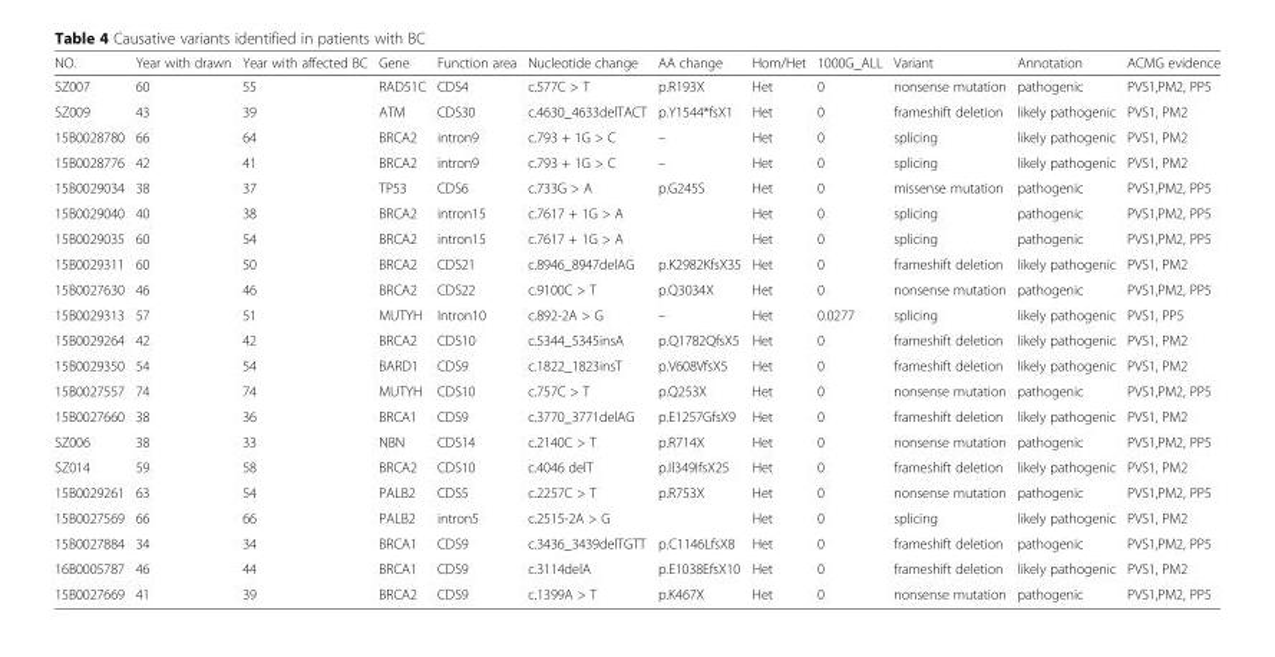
<table><thead><tr><td>NO.</td><td>Year with drawn</td><td>Year with affected BC</td><td>Gene</td><td>Function area</td><td>Nucleotide change</td><td>AA change</td><td>Hom/Het</td><td>1000G_ALL</td><td>Variant</td><td>Annotation</td><td>ACMG evidence</td></tr></thead><tbody><tr><td>SZ007</td><td>60</td><td>55</td><td>RAD51C</td><td>CDS4</td><td>c.577C &gt; T</td><td>p.R193X</td><td>Het</td><td>0</td><td>nonsense mutation</td><td>pathogenic</td><td>PVS1,PM2, PP5</td></tr><tr><td>SZ009</td><td>43</td><td>39</td><td>ATM</td><td>CDS30</td><td>c.4630_4633delTACT</td><td>p.Y1544*fsX1</td><td>Het</td><td>0</td><td>frameshift deletion</td><td>likely pathogenic</td><td>PVS1, PM2</td></tr><tr><td>15B0028780</td><td>66</td><td>64</td><td>BRCA2</td><td>intron9</td><td>c.793 + 1G &gt; C</td><td>–</td><td>Het</td><td>0</td><td>splicing</td><td>likely pathogenic</td><td>PVS1, PM2</td></tr><tr><td>15B0028776</td><td>42</td><td>41</td><td>BRCA2</td><td>intron9</td><td>c.793 + 1G &gt; C</td><td>–</td><td>Het</td><td>0</td><td>splicing</td><td>likely pathogenic</td><td>PVS1, PM2</td></tr><tr><td>15B0029034</td><td>38</td><td>37</td><td>TP53</td><td>CDS6</td><td>c.733G &gt; A</td><td>p.G245S</td><td>Het</td><td>0</td><td>missense mutation</td><td>pathogenic</td><td>PVS1,PM2, PP5</td></tr><tr><td>15B0029040</td><td>40</td><td>38</td><td>BRCA2</td><td>intron15</td><td>c.7617 + 1G &gt; A</td><td></td><td>Het</td><td>0</td><td>splicing</td><td>pathogenic</td><td>PVS1,PM2, PP5</td></tr><tr><td>15B0029035</td><td>60</td><td>54</td><td>BRCA2</td><td>intron15</td><td>c.7617 + 1G &gt; A</td><td></td><td>Het</td><td>0</td><td>splicing</td><td>pathogenic</td><td>PVS1,PM2, PP5</td></tr><tr><td>15B0029311</td><td>60</td><td>50</td><td>BRCA2</td><td>CDS21</td><td>c.8946_8947delAG</td><td>p.K2982KfsX35</td><td>Het</td><td>0</td><td>frameshift deletion</td><td>likely pathogenic</td><td>PVS1, PM2</td></tr><tr><td>15B0027630</td><td>46</td><td>46</td><td>BRCA2</td><td>CDS22</td><td>c.9100C &gt; T</td><td>p.Q3034X</td><td>Het</td><td>0</td><td>nonsense mutation</td><td>pathogenic</td><td>PVS1,PM2, PP5</td></tr><tr><td>15B0029313</td><td>57</td><td>51</td><td>MUTYH</td><td>Intron10</td><td>c.892-2A &gt; G</td><td>–</td><td>Het</td><td>0.0277</td><td>splicing</td><td>likely pathogenic</td><td>PVS1, PP5</td></tr><tr><td>15B0029264</td><td>42</td><td>42</td><td>BRCA2</td><td>CDS10</td><td>c.5344_5345insA</td><td>p.Q1782QfsX5</td><td>Het</td><td>0</td><td>frameshift deletion</td><td>likely pathogenic</td><td>PVS1, PM2</td></tr><tr><td>15B0029350</td><td>54</td><td>54</td><td>BARD1</td><td>CDS9</td><td>c.1822_1823insT</td><td>p.V608VfsX5</td><td>Het</td><td>0</td><td>frameshift deletion</td><td>likely pathogenic</td><td>PVS1, PM2</td></tr><tr><td>15B0027557</td><td>74</td><td>74</td><td>MUTYH</td><td>CDS10</td><td>c.757C &gt; T</td><td>p.Q253X</td><td>Het</td><td>0</td><td>nonsense mutation</td><td>pathogenic</td><td>PVS1,PM2, PP5</td></tr><tr><td>15B0027660</td><td>38</td><td>36</td><td>BRCA1</td><td>CDS9</td><td>c.3770_3771delAG</td><td>p.E1257GfsX9</td><td>Het</td><td>0</td><td>frameshift deletion</td><td>likely pathogenic</td><td>PVS1, PM2</td></tr><tr><td>SZ006</td><td>38</td><td>33</td><td>NBN</td><td>CDS14</td><td>c.2140C &gt; T</td><td>p.R714X</td><td>Het</td><td>0</td><td>nonsense mutation</td><td>pathogenic</td><td>PVS1,PM2, PP5</td></tr><tr><td>SZ014</td><td>59</td><td>58</td><td>BRCA2</td><td>CDS10</td><td>c.4046 delT</td><td>p.Il349IfsX25</td><td>Het</td><td>0</td><td>frameshift deletion</td><td>likely pathogenic</td><td>PVS1, PM2</td></tr><tr><td>15B0029261</td><td>63</td><td>54</td><td>PALB2</td><td>CDS5</td><td>c.2257C &gt; T</td><td>p.R753X</td><td>Het</td><td>0</td><td>nonsense mutation</td><td>pathogenic</td><td>PVS1,PM2, PP5</td></tr><tr><td>15B0027569</td><td>66</td><td>66</td><td>PALB2</td><td>intron5</td><td>c.2515-2A &gt; G</td><td></td><td>Het</td><td>0</td><td>splicing</td><td>likely pathogenic</td><td>PVS1, PM2</td></tr><tr><td>15B0027884</td><td>34</td><td>34</td><td>BRCA1</td><td>CDS9</td><td>c.3436_3439delTGTT</td><td>p.C1146LfsX8</td><td>Het</td><td>0</td><td>frameshift deletion</td><td>pathogenic</td><td>PVS1,PM2, PP5</td></tr><tr><td>16B0005787</td><td>46</td><td>44</td><td>BRCA1</td><td>CDS9</td><td>c.3114delA</td><td>p.E1038EfsX10</td><td>Het</td><td>0</td><td>frameshift deletion</td><td>likely pathogenic</td><td>PVS1, PM2</td></tr><tr><td>15B0027669</td><td>41</td><td>39</td><td>BRCA2</td><td>CDS9</td><td>c.1399A &gt; T</td><td>p.K467X</td><td>Het</td><td>0</td><td>nonsense mutation</td><td>pathogenic</td><td>PVS1,PM2, PP5</td></tr></tbody></table>